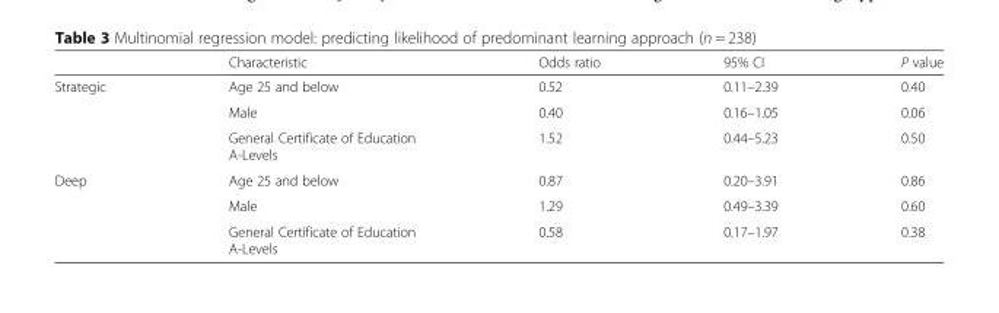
<table><thead><tr><td></td><td>Characteristic</td><td>Odds ratio</td><td>95% CI</td><td>P value</td></tr></thead><tbody><tr><td rowspan="3">Strategic</td><td>Age 25 and below</td><td>0.52</td><td>0.11–2.39</td><td>0.40</td></tr><tr><td>Male</td><td>0.40</td><td>0.16–1.05</td><td>0.06</td></tr><tr><td>General Certificate of Education A-Levels</td><td>1.52</td><td>0.44–5.23</td><td>0.50</td></tr><tr><td rowspan="3">Deep</td><td>Age 25 and below</td><td>0.87</td><td>0.20–3.91</td><td>0.86</td></tr><tr><td>Male</td><td>1.29</td><td>0.49–3.39</td><td>0.60</td></tr><tr><td>General Certificate of Education A-Levels</td><td>0.58</td><td>0.17–1.97</td><td>0.38</td></tr></tbody></table>